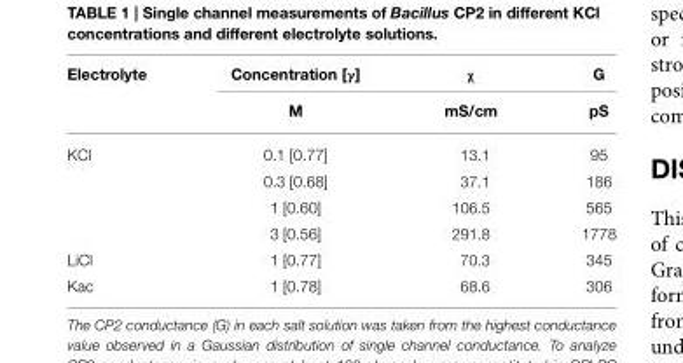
<table><thead><tr><td rowspan="2">Electrolyte</td><td rowspan="2">Concentration [γ] M</td><td rowspan="2">χ mS/cm</td><td rowspan="2">G pS</td></tr><tr></tr></thead><tbody><tr><td rowspan="4">KCl</td><td>0.1 [0.77]</td><td>13.1</td><td>95</td></tr><tr><td>0.3 [0.68]</td><td>37.1</td><td>186</td></tr><tr><td>1 [0.60]</td><td>106.5</td><td>565</td></tr><tr><td>3 [0.56]</td><td>291.8</td><td>1778</td></tr><tr><td>LiCl</td><td>1 [0.77]</td><td>70.3</td><td>345</td></tr><tr><td>Kac</td><td>1 [0.78]</td><td>68.6</td><td>306</td></tr></tbody></table>